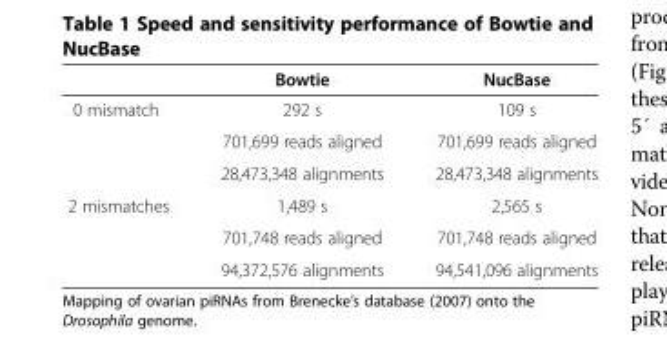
<table><thead><tr><td></td><td>Bowtie</td><td>NucBase</td></tr></thead><tbody><tr><td rowspan="3">0 mismatch</td><td>292 s</td><td>109 s</td></tr><tr><td>701,699 reads aligned</td><td>701,699 reads aligned</td></tr><tr><td>28,473,348 alignments</td><td>28,473,348 alignments</td></tr><tr><td rowspan="3">2 mismatches</td><td>1,489 s</td><td>2,565 s</td></tr><tr><td>701,748 reads aligned</td><td>701,748 reads aligned</td></tr><tr><td>94,372,576 alignments</td><td>94,541,096 alignments</td></tr></tbody></table>